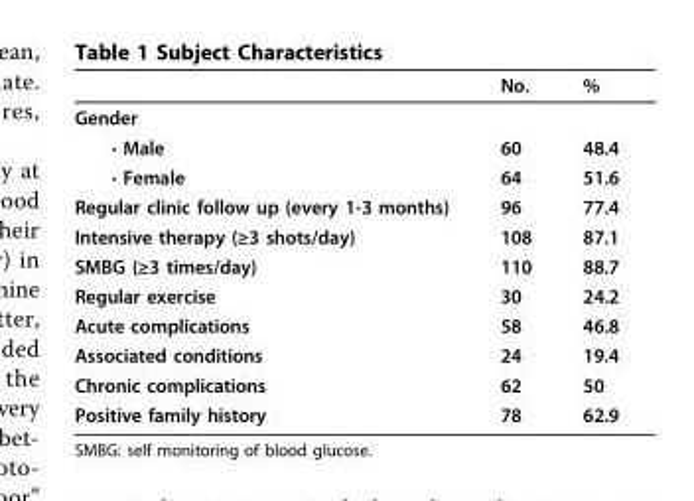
<table><thead><tr><td></td><td>No.</td><td>%</td></tr></thead><tbody><tr><td colspan="3">Gender</td></tr><tr><td>• Male</td><td>60</td><td>48.4</td></tr><tr><td>• Female</td><td>64</td><td>51.6</td></tr><tr><td>Regular clinic follow up (every 1-3 months)</td><td>96</td><td>77.4</td></tr><tr><td>Intensive therapy (≥3 shots/day)</td><td>108</td><td>87.1</td></tr><tr><td>SMBG (≥3 times/day)</td><td>110</td><td>88.7</td></tr><tr><td>Regular exercise</td><td>30</td><td>24.2</td></tr><tr><td>Acute complications</td><td>58</td><td>46.8</td></tr><tr><td>Associated conditions</td><td>24</td><td>19.4</td></tr><tr><td>Chronic complications</td><td>62</td><td>50</td></tr><tr><td>Positive family history</td><td>78</td><td>62.9</td></tr></tbody></table>